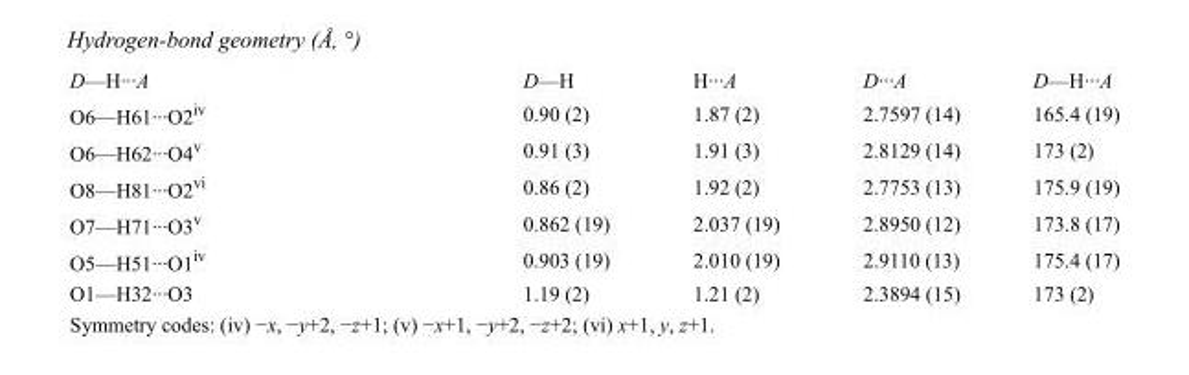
<table><tbody><tr><td>D—H···A</td><td>D—H</td><td>H···A</td><td>D···A</td><td>D—H···A</td></tr><tr><td>O6—H61···O2<sup>iv</sup></td><td>0.90 (2)</td><td>1.87 (2)</td><td>2.7597 (14)</td><td>165.4 (19)</td></tr><tr><td>O6—H62···O4<sup>v</sup></td><td>0.91 (3)</td><td>1.91 (3)</td><td>2.8129 (14)</td><td>173 (2)</td></tr><tr><td>O8—H81···O2<sup>vi</sup></td><td>0.86 (2)</td><td>1.92 (2)</td><td>2.7753 (13)</td><td>175.9 (19)</td></tr><tr><td>O7—H71···O3<sup>v</sup></td><td>0.862 (19)</td><td>2.037 (19)</td><td>2.8950 (12)</td><td>173.8 (17)</td></tr><tr><td>O5—H51···O1<sup>iv</sup></td><td>0.903 (19)</td><td>2.010 (19)</td><td>2.9110 (13)</td><td>175.4 (17)</td></tr><tr><td>O1—H32···O3</td><td>1.19 (2)</td><td>1.21 (2)</td><td>2.3894 (15)</td><td>173 (2)</td></tr></tbody></table>